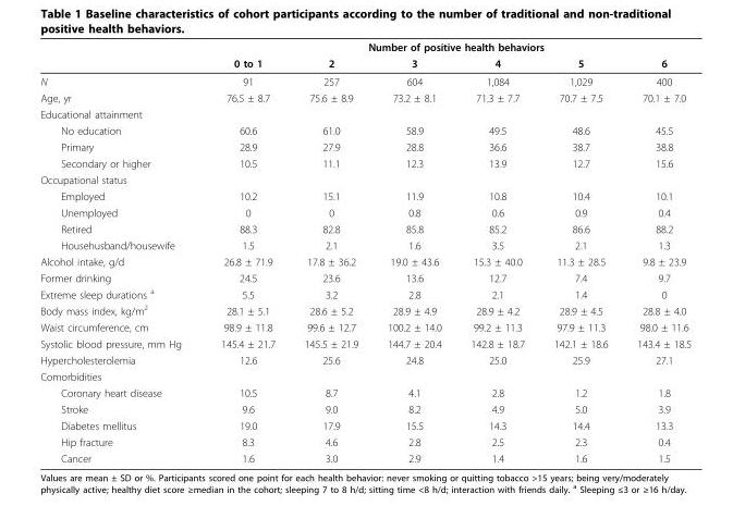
<table><thead><tr><td rowspan="2"></td><td colspan="6">Number of positive health behaviors</td></tr><tr><td>0 to 1</td><td>2</td><td>3</td><td>4</td><td>5</td><td>6</td></tr></thead><tbody><tr><td>N</td><td>91</td><td>257</td><td>604</td><td>1,084</td><td>1,029</td><td>400</td></tr><tr><td>Age, yr</td><td>76.5 ± 8.7</td><td>75.6 ± 8.9</td><td>73.2 ± 8.1</td><td>71.3 ± 7.7</td><td>70.7 ± 7.5</td><td>70.1 ± 7.0</td></tr><tr><td colspan="7">Educational attainment</td></tr><tr><td>No education</td><td>60.6</td><td>61.0</td><td>58.9</td><td>49.5</td><td>48.6</td><td>45.5</td></tr><tr><td>Primary</td><td>28.9</td><td>27.9</td><td>28.8</td><td>36.6</td><td>38.7</td><td>38.8</td></tr><tr><td>Secondary or higher</td><td>10.5</td><td>11.1</td><td>12.3</td><td>13.9</td><td>12.7</td><td>15.6</td></tr><tr><td colspan="7">Occupational status</td></tr><tr><td>Employed</td><td>10.2</td><td>15.1</td><td>11.9</td><td>10.8</td><td>10.4</td><td>10.1</td></tr><tr><td>Unemployed</td><td>0</td><td>0</td><td>0.8</td><td>0.6</td><td>0.9</td><td>0.4</td></tr><tr><td>Retired</td><td>88.3</td><td>82.8</td><td>85.8</td><td>85.2</td><td>86.6</td><td>88.2</td></tr><tr><td>Househusband/housewife</td><td>1.5</td><td>2.1</td><td>1.6</td><td>3.5</td><td>2.1</td><td>1.3</td></tr><tr><td>Alcohol intake, g/d</td><td>26.8 ± 71.9</td><td>17.8 ± 36.2</td><td>19.0 ± 43.6</td><td>15.3 ± 40.0</td><td>11.3 ± 28.5</td><td>9.8 ± 23.9</td></tr><tr><td>Former drinking</td><td>24.5</td><td>23.6</td><td>13.6</td><td>12.7</td><td>7.4</td><td>9.7</td></tr><tr><td>Extreme sleep durations <sup>a</sup></td><td>5.5</td><td>3.2</td><td>2.8</td><td>2.1</td><td>1.4</td><td>0</td></tr><tr><td>Body mass index, kg/m<sup>2</sup></td><td>28.1 ± 5.1</td><td>28.6 ± 5.2</td><td>28.9 ± 4.9</td><td>28.9 ± 4.2</td><td>28.9 ± 4.5</td><td>28.8 ± 4.0</td></tr><tr><td>Waist circumference, cm</td><td>98.9 ± 11.8</td><td>99.6 ± 12.7</td><td>100.2 ± 14.0</td><td>99.2 ± 11.3</td><td>97.9 ± 11.3</td><td>98.0 ± 11.6</td></tr><tr><td>Systolic blood pressure, mm Hg</td><td>145.4 ± 21.7</td><td>145.5 ± 21.9</td><td>144.7 ± 20.4</td><td>142.8 ± 18.7</td><td>142.1 ± 18.6</td><td>143.4 ± 18.5</td></tr><tr><td>Hypercholesterolemia</td><td>12.6</td><td>25.6</td><td>24.8</td><td>25.0</td><td>25.9</td><td>27.1</td></tr><tr><td colspan="7">Comorbidities</td></tr><tr><td>Coronary heart disease</td><td>10.5</td><td>8.7</td><td>4.1</td><td>2.8</td><td>1.2</td><td>1.8</td></tr><tr><td>Stroke</td><td>9.6</td><td>9.0</td><td>8.2</td><td>4.9</td><td>5.0</td><td>3.9</td></tr><tr><td>Diabetes mellitus</td><td>19.0</td><td>17.9</td><td>15.5</td><td>14.3</td><td>14.4</td><td>13.3</td></tr><tr><td>Hip fracture</td><td>8.3</td><td>4.6</td><td>2.8</td><td>2.5</td><td>2.3</td><td>0.4</td></tr><tr><td>Cancer</td><td>1.6</td><td>3.0</td><td>2.9</td><td>1.4</td><td>1.6</td><td>1.5</td></tr></tbody></table>